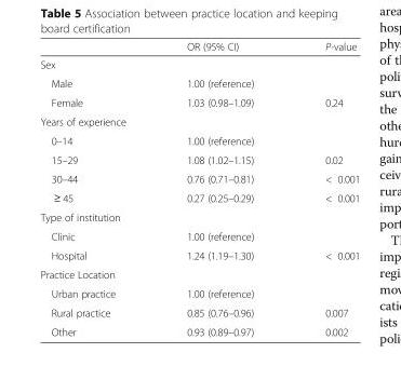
<table><thead><tr><td></td><td>OR (95% CI)</td><td>P-value</td></tr></thead><tbody><tr><td colspan="3">Sex</td></tr><tr><td>Male</td><td>1.00 (reference)</td><td></td></tr><tr><td>Female</td><td>1.03 (0.98–1.09)</td><td>0.24</td></tr><tr><td colspan="3">Years of experience</td></tr><tr><td>0–14</td><td>1.00 (reference)</td><td></td></tr><tr><td>15–29</td><td>1.08 (1.02–1.15)</td><td>0.02</td></tr><tr><td>30–44</td><td>0.76 (0.71–0.81)</td><td>&lt; 0.001</td></tr><tr><td>≥ 45</td><td>0.27 (0.25–0.29)</td><td>&lt; 0.001</td></tr><tr><td colspan="3">Type of institution</td></tr><tr><td>Clinic</td><td>1.00 (reference)</td><td></td></tr><tr><td>Hospital</td><td>1.24 (1.19–1.30)</td><td>&lt; 0.001</td></tr><tr><td colspan="3">Practice Location</td></tr><tr><td>Urban practice</td><td>1.00 (reference)</td><td></td></tr><tr><td>Rural practice</td><td>0.85 (0.76–0.96)</td><td>0.007</td></tr><tr><td>Other</td><td>0.93 (0.89–0.97)</td><td>0.002</td></tr></tbody></table>